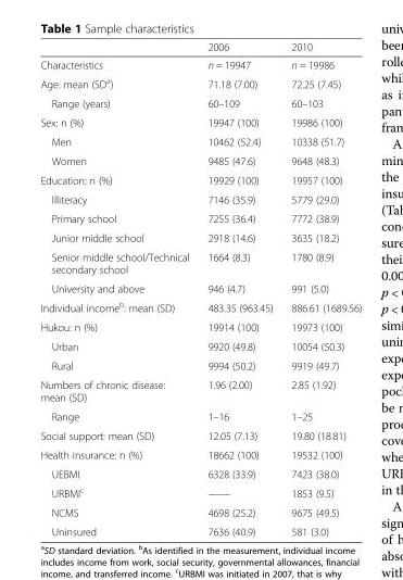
<table><thead><tr><td></td><td>2006</td><td>2010</td></tr></thead><tbody><tr><td>Characteristics</td><td>n = 19947</td><td>n = 19986</td></tr><tr><td>Age: mean (SD<sup>a</sup>)</td><td>71.18 (7.00)</td><td>72.25 (7.45)</td></tr><tr><td>Range (years)</td><td>60–109</td><td>60–103</td></tr><tr><td>Sex: n (%)</td><td>19947 (100)</td><td>19986 (100)</td></tr><tr><td>Men</td><td>10462 (52.4)</td><td>10338 (51.7)</td></tr><tr><td>Women</td><td>9485 (47.6)</td><td>9648 (48.3)</td></tr><tr><td>Education: n (%)</td><td>19929 (100)</td><td>19957 (100)</td></tr><tr><td>Illiteracy</td><td>7146 (35.9)</td><td>5779 (29.0)</td></tr><tr><td>Primary school</td><td>7255 (36.4)</td><td>7772 (38.9)</td></tr><tr><td>Junior middle school</td><td>2918 (14.6)</td><td>3635 (18.2)</td></tr><tr><td>Senior middle school/Technical secondary school</td><td>1664 (8.3)</td><td>1780 (8.9)</td></tr><tr><td>University and above</td><td>946 (4.7)</td><td>991 (5.0)</td></tr><tr><td>Individual income<sup>b</sup>: mean (SD)</td><td>483.35 (963.45)</td><td>886.61 (1689.56)</td></tr><tr><td>Hukou: n (%)</td><td>19914 (100)</td><td>19973 (100)</td></tr><tr><td>Urban</td><td>9920 (49.8)</td><td>10054 (50.3)</td></tr><tr><td>Rural</td><td>9994 (50.2)</td><td>9919 (49.7)</td></tr><tr><td>Numbers of chronic disease: mean (SD)</td><td>1.96 (2.00)</td><td>2.85 (1.92)</td></tr><tr><td>Range</td><td>1–16</td><td>1–25</td></tr><tr><td>Social support: mean (SD)</td><td>12.05 (7.13)</td><td>19.80 (18.81)</td></tr><tr><td>Health insurance: n (%)</td><td>18662 (100)</td><td>19532 (100)</td></tr><tr><td>UEBMI</td><td>6328 (33.9)</td><td>7423 (38.0)</td></tr><tr><td>URBMI<sup>c</sup></td><td>——</td><td>1853 (9.5)</td></tr><tr><td>NCMS</td><td>4698 (25.2)</td><td>9675 (49.5)</td></tr><tr><td>Uninsured</td><td>7636 (40.9)</td><td>581 (3.0)</td></tr></tbody></table>